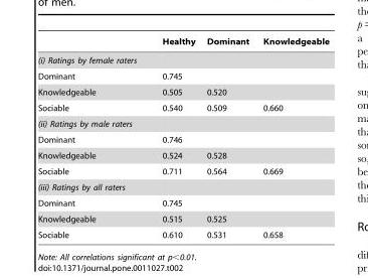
<table><thead><tr><td></td><td>Healthy</td><td>Dominant</td><td>Knowledgeable</td></tr></thead><tbody><tr><td colspan="4">(i) Ratings by female raters</td></tr><tr><td>Dominant</td><td>0.745</td><td></td><td></td></tr><tr><td>Knowledgeable</td><td>0.505</td><td>0.520</td><td></td></tr><tr><td>Sociable</td><td>0.540</td><td>0.509</td><td>0.660</td></tr><tr><td colspan="4">(ii) Ratings by male raters</td></tr><tr><td>Dominant</td><td>0.746</td><td></td><td></td></tr><tr><td>Knowledgeable</td><td>0.524</td><td>0.528</td><td></td></tr><tr><td>Sociable</td><td>0.711</td><td>0.564</td><td>0.669</td></tr><tr><td colspan="4">(iii) Ratings by all raters</td></tr><tr><td>Dominant</td><td>0.745</td><td></td><td></td></tr><tr><td>Knowledgeable</td><td>0.515</td><td>0.525</td><td></td></tr><tr><td>Sociable</td><td>0.610</td><td>0.531</td><td>0.658</td></tr></tbody></table>